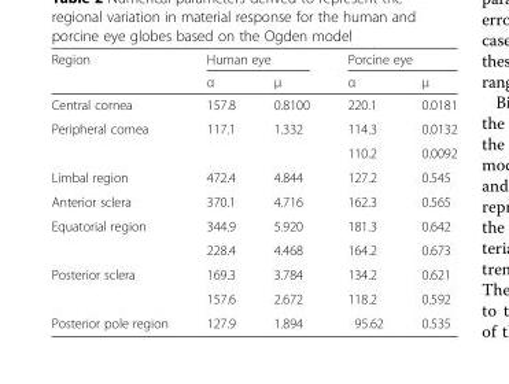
<table><thead><tr><td rowspan="2">Region</td><td colspan="2">Human eye</td><td colspan="2">Porcine eye</td></tr><tr><td>α</td><td>μ</td><td>α</td><td>μ</td></tr></thead><tbody><tr><td>Central cornea</td><td>157.8</td><td>0.8100</td><td>220.1</td><td>0.0181</td></tr><tr><td rowspan="2">Peripheral cornea</td><td rowspan="2">117.1</td><td rowspan="2">1.332</td><td>114.3</td><td>0.0132</td></tr><tr><td>110.2</td><td>0.0092</td></tr><tr><td>Limbal region</td><td>472.4</td><td>4.844</td><td>127.2</td><td>0.545</td></tr><tr><td>Anterior sclera</td><td>370.1</td><td>4.716</td><td>162.3</td><td>0.565</td></tr><tr><td rowspan="2">Equatorial region</td><td>344.9</td><td>5.920</td><td>181.3</td><td>0.642</td></tr><tr><td>228.4</td><td>4.468</td><td>164.2</td><td>0.673</td></tr><tr><td rowspan="2">Posterior sclera</td><td>169.3</td><td>3.784</td><td>134.2</td><td>0.621</td></tr><tr><td>157.6</td><td>2.672</td><td>118.2</td><td>0.592</td></tr><tr><td>Posterior pole region</td><td>127.9</td><td>1.894</td><td>95.62</td><td>0.535</td></tr></tbody></table>